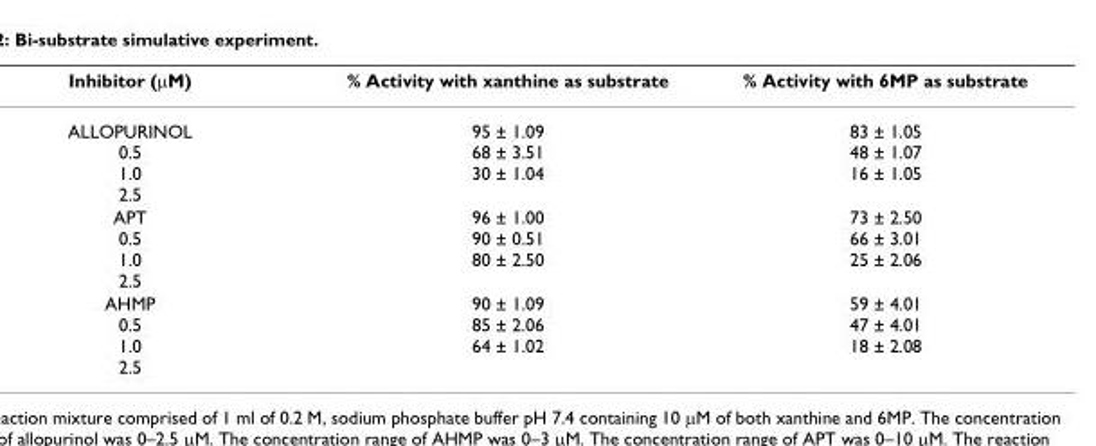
<table><thead><tr><td>Inhibitor (μM)</td><td>% Activity with xanthine as substrate</td><td>% Activity with 6MP as substrate</td></tr></thead><tbody><tr><td>ALLOPURINOL 0.5 1.0 2.5</td><td>95 ± 1.09 68 ± 3.51 30 ± 1.04</td><td>83 ± 1.05 48 ± 1.07 16 ± 1.05</td></tr><tr><td>APT 0.5 1.0 2.5</td><td>96 ± 1.00 90 ± 0.51 80 ± 2.50</td><td>73 ± 2.50 66 ± 3.01 25 ± 2.06</td></tr><tr><td>AHMP 0.5 1.0 2.5</td><td>90 ± 1.09 85 ± 2.06 64 ± 1.02</td><td>59 ± 4.01 47 ± 4.01 18 ± 2.08</td></tr></tbody></table>